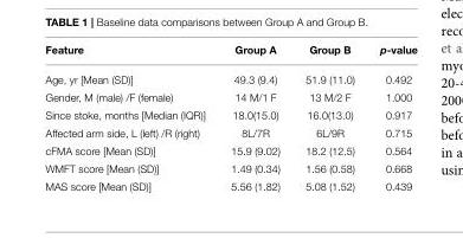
<table><thead><tr><td>Feature</td><td>Group A</td><td>Group B</td><td>p-value</td></tr></thead><tbody><tr><td>Age, yr [Mean (SD)]</td><td>49.3 (9.4)</td><td>51.9 (11.0)</td><td>0.492</td></tr><tr><td>Gender, M (male) /F (female)</td><td>14 M/1 F</td><td>13 M/2 F</td><td>1.000</td></tr><tr><td>Since stoke, months [Median (IQR)]</td><td>18.0(15.0)</td><td>16.0(13.0)</td><td>0.917</td></tr><tr><td>Affected arm side, L (left) /R (right)</td><td>8L/7R</td><td>6L/9R</td><td>0.715</td></tr><tr><td>cFMA score [Mean (SD)]</td><td>15.9 (9.02)</td><td>18.2 (12.5)</td><td>0.564</td></tr><tr><td>WMFT score [Mean (SD)]</td><td>1.49 (0.34)</td><td>1.56 (0.58)</td><td>0.668</td></tr><tr><td>MAS score [Mean (SD)]</td><td>5.56 (1.82)</td><td>5.08 (1.52)</td><td>0.439</td></tr></tbody></table>